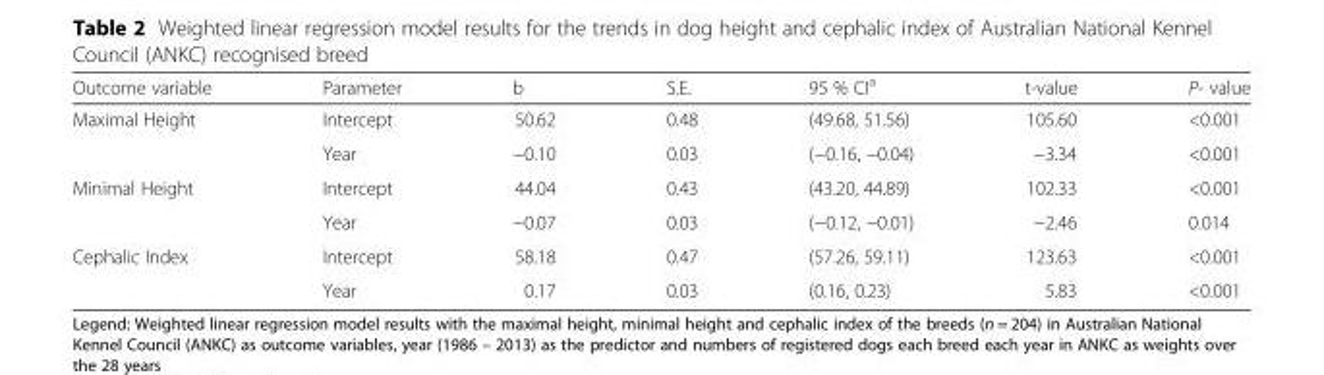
<table><thead><tr><td>Outcome variable</td><td>Parameter</td><td>b</td><td>S.E.</td><td>95 % CI<sup>a</sup></td><td>t-value</td><td>P- value</td></tr></thead><tbody><tr><td rowspan="2">Maximal Height</td><td>Intercept</td><td>50.62</td><td>0.48</td><td>(49.68, 51.56)</td><td>105.60</td><td>&lt;0.001</td></tr><tr><td>Year</td><td>−0.10</td><td>0.03</td><td>(−0.16, −0.04)</td><td>−3.34</td><td>&lt;0.001</td></tr><tr><td rowspan="2">Minimal Height</td><td>Intercept</td><td>44.04</td><td>0.43</td><td>(43.20, 44.89)</td><td>102.33</td><td>&lt;0.001</td></tr><tr><td>Year</td><td>−0.07</td><td>0.03</td><td>(−0.12, −0.01)</td><td>−2.46</td><td>0.014</td></tr><tr><td rowspan="2">Cephalic Index</td><td>Intercept</td><td>58.18</td><td>0.47</td><td>(57.26, 59.11)</td><td>123.63</td><td>&lt;0.001</td></tr><tr><td>Year</td><td>0.17</td><td>0.03</td><td>(0.16, 0.23)</td><td>5.83</td><td>&lt;0.001</td></tr></tbody></table>